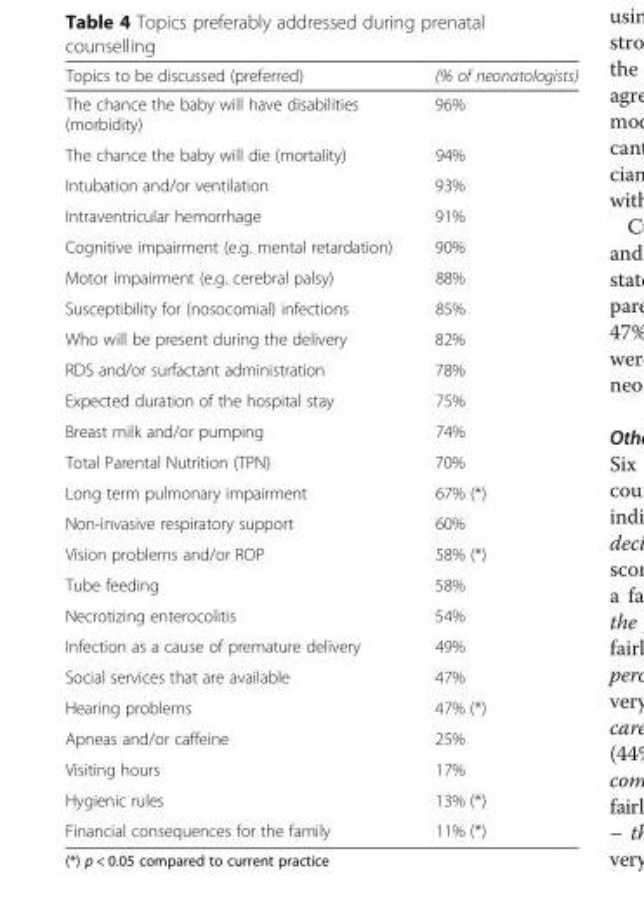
<table><thead><tr><td>Topics to be discussed (preferred)</td><td>(% of neonatologists)</td></tr></thead><tbody><tr><td>The chance the baby will have disabilities (morbidity)</td><td>96%</td></tr><tr><td>The chance the baby will die (mortality)</td><td>94%</td></tr><tr><td>Intubation and/or ventilation</td><td>93%</td></tr><tr><td>Intraventricular hemorrhage</td><td>91%</td></tr><tr><td>Cognitive impairment (e.g. mental retardation)</td><td>90%</td></tr><tr><td>Motor impairment (e.g. cerebral palsy)</td><td>88%</td></tr><tr><td>Susceptibility for (nosocomial) infections</td><td>85%</td></tr><tr><td>Who will be present during the delivery</td><td>82%</td></tr><tr><td>RDS and/or surfactant administration</td><td>78%</td></tr><tr><td>Expected duration of the hospital stay</td><td>75%</td></tr><tr><td>Breast milk and/or pumping</td><td>74%</td></tr><tr><td>Total Parental Nutrition (TPN)</td><td>70%</td></tr><tr><td>Long term pulmonary impairment</td><td>67% (*)</td></tr><tr><td>Non-invasive respiratory support</td><td>60%</td></tr><tr><td>Vision problems and/or ROP</td><td>58% (*)</td></tr><tr><td>Tube feeding</td><td>58%</td></tr><tr><td>Necrotizing enterocolitis</td><td>54%</td></tr><tr><td>Infection as a cause of premature delivery</td><td>49%</td></tr><tr><td>Social services that are available</td><td>47%</td></tr><tr><td>Hearing problems</td><td>47% (*)</td></tr><tr><td>Apneas and/or caffeine</td><td>25%</td></tr><tr><td>Visiting hours</td><td>17%</td></tr><tr><td>Hygienic rules</td><td>13% (*)</td></tr><tr><td>Financial consequences for the family</td><td>11% (*)</td></tr></tbody></table>